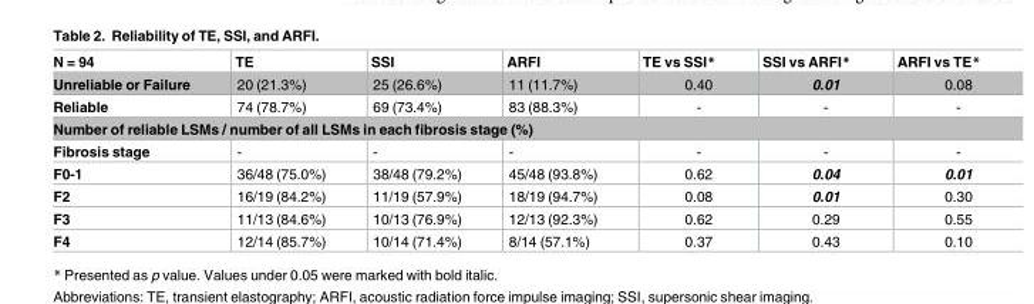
<table><thead><tr><td>N = 94</td><td>TE</td><td>SSI</td><td>ARFI</td><td>TE vs SSI*</td><td>SSI vs ARFI*</td><td>ARFI vs TE*</td></tr></thead><tbody><tr><td>Unreliable or Failure</td><td>20 (21.3%)</td><td>25 (26.6%)</td><td>11 (11.7%)</td><td>0.40</td><td>0.01</td><td>0.08</td></tr><tr><td>Reliable</td><td>74 (78.7%)</td><td>69 (73.4%)</td><td>83 (88.3%)</td><td>-</td><td>-</td><td>-</td></tr><tr><td colspan="7">Number of reliable LSMs / number of all LSMs in each fibrosis stage (%)</td></tr><tr><td>Fibrosis stage</td><td>-</td><td>-</td><td>-</td><td>-</td><td>-</td><td>-</td></tr><tr><td>F0-1</td><td>36/48 (75.0%)</td><td>38/48 (79.2%)</td><td>45/48 (93.8%)</td><td>0.62</td><td>0.04</td><td>0.01</td></tr><tr><td>F2</td><td>16/19 (84.2%)</td><td>11/19 (57.9%)</td><td>18/19 (94.7%)</td><td>0.08</td><td>0.01</td><td>0.30</td></tr><tr><td>F3</td><td>11/13 (84.6%)</td><td>10/13 (76.9%)</td><td>12/13 (92.3%)</td><td>0.62</td><td>0.29</td><td>0.55</td></tr><tr><td>F4</td><td>12/14 (85.7%)</td><td>10/14 (71.4%)</td><td>8/14 (57.1%)</td><td>0.37</td><td>0.43</td><td>0.10</td></tr></tbody></table>